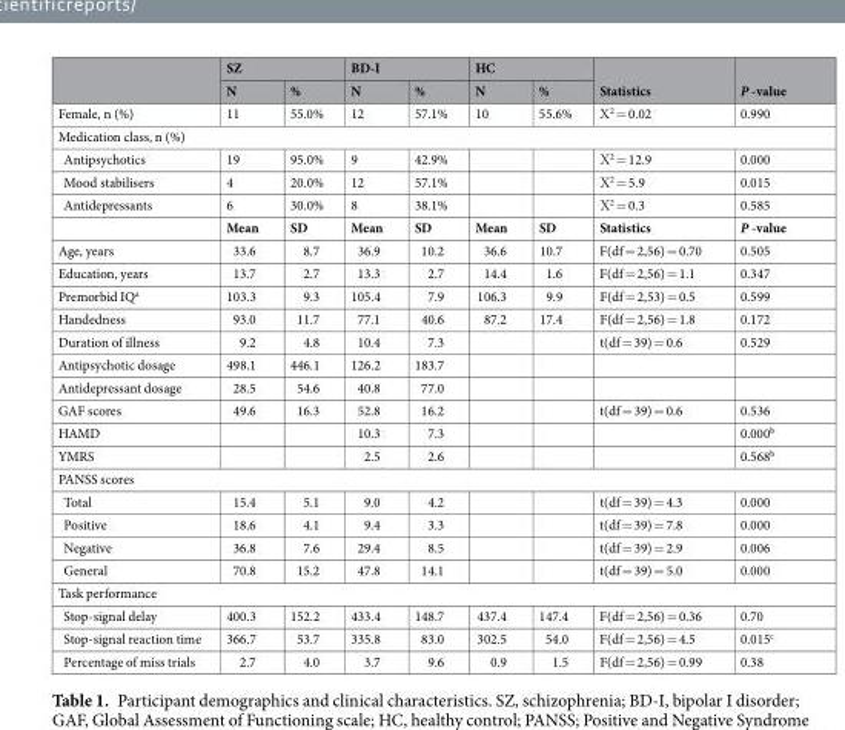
<table><thead><tr><td rowspan="2"></td><td colspan="2">SZ</td><td colspan="2">BD-I</td><td colspan="2">HC</td><td rowspan="2">Statistics</td><td rowspan="2">P -value</td></tr><tr><td>N</td><td>%</td><td>N</td><td>%</td><td>N</td><td>%</td></tr></thead><tbody><tr><td>Female, n (%)</td><td>11</td><td>55.0%</td><td>12</td><td>57.1%</td><td>10</td><td>55.6%</td><td>Χ<sup>2</sup> = 0.02</td><td>0.990</td></tr><tr><td colspan="9">Medication class, n (%)</td></tr><tr><td>Antipsychotics</td><td>19</td><td>95.0%</td><td>9</td><td>42.9%</td><td></td><td></td><td>Χ<sup>2</sup> = 12.9</td><td>0.000</td></tr><tr><td>Mood stabilisers</td><td>4</td><td>20.0%</td><td>12</td><td>57.1%</td><td></td><td></td><td>Χ<sup>2</sup> = 5.9</td><td>0.015</td></tr><tr><td rowspan="2">Antidepressants</td><td>6</td><td>30.0%</td><td>8</td><td>38.1%</td><td></td><td></td><td>Χ<sup>2</sup> = 0.3</td><td>0.585</td></tr><tr><td>Mean</td><td>SD</td><td>Mean</td><td>SD</td><td>Mean</td><td>SD</td><td>Statistics</td><td>P -value</td></tr><tr><td>Age, years</td><td>33.6</td><td>8.7</td><td>36.9</td><td>10.2</td><td>36.6</td><td>10.7</td><td>F(df = 2,56) = 0.70</td><td>0.505</td></tr><tr><td>Education, years</td><td>13.7</td><td>2.7</td><td>13.3</td><td>2.7</td><td>14.4</td><td>1.6</td><td>F(df = 2,56) = 1.1</td><td>0.347</td></tr><tr><td>Premorbid IQ<sup>a</sup></td><td>103.3</td><td>9.3</td><td>105.4</td><td>7.9</td><td>106.3</td><td>9.9</td><td>F(df = 2,53) = 0.5</td><td>0.599</td></tr><tr><td>Handedness</td><td>93.0</td><td>11.7</td><td>77.1</td><td>40.6</td><td>87.2</td><td>17.4</td><td>F(df = 2,56) = 1.8</td><td>0.172</td></tr><tr><td>Duration of illness</td><td>9.2</td><td>4.8</td><td>10.4</td><td>7.3</td><td></td><td></td><td>t(df = 39) = 0.6</td><td>0.529</td></tr><tr><td>Antipsychotic dosage</td><td>498.1</td><td>446.1</td><td>126.2</td><td>183.7</td><td></td><td></td><td></td><td></td></tr><tr><td>Antidepressant dosage</td><td>28.5</td><td>54.6</td><td>40.8</td><td>77.0</td><td></td><td></td><td></td><td></td></tr><tr><td>GAF scores</td><td>49.6</td><td>16.3</td><td>52.8</td><td>16.2</td><td></td><td></td><td>t(df = 39) = 0.6</td><td>0.536</td></tr><tr><td>HAMD</td><td></td><td></td><td>10.3</td><td>7.3</td><td></td><td></td><td></td><td>0.000<sup>b</sup></td></tr><tr><td>YMRS</td><td></td><td></td><td>2.5</td><td>2.6</td><td></td><td></td><td></td><td>0.568<sup>b</sup></td></tr><tr><td colspan="9">PANSS scores</td></tr><tr><td>Total</td><td>15.4</td><td>5.1</td><td>9.0</td><td>4.2</td><td></td><td></td><td>t(df = 39) = 4.3</td><td>0.000</td></tr><tr><td>Positive</td><td>18.6</td><td>4.1</td><td>9.4</td><td>3.3</td><td></td><td></td><td>t(df = 39) = 7.8</td><td>0.000</td></tr><tr><td>Negative</td><td>36.8</td><td>7.6</td><td>29.4</td><td>8.5</td><td></td><td></td><td>t(df = 39) = 2.9</td><td>0.006</td></tr><tr><td>General</td><td>70.8</td><td>15.2</td><td>47.8</td><td>14.1</td><td></td><td></td><td>t(df = 39) = 5.0</td><td>0.000</td></tr><tr><td colspan="9">Task performance</td></tr><tr><td>Stop-signal delay</td><td>400.3</td><td>152.2</td><td>433.4</td><td>148.7</td><td>437.4</td><td>147.4</td><td>F(df = 2,56) = 0.36</td><td>0.70</td></tr><tr><td>Stop-signal reaction time</td><td>366.7</td><td>53.7</td><td>335.8</td><td>83.0</td><td>302.5</td><td>54.0</td><td>F(df = 2,56) = 4.5</td><td>0.015<sup>c</sup></td></tr><tr><td>Percentage of miss trials</td><td>2.7</td><td>4.0</td><td>3.7</td><td>9.6</td><td>0.9</td><td>1.5</td><td>F(df = 2,56) = 0.99</td><td>0.38</td></tr></tbody></table>